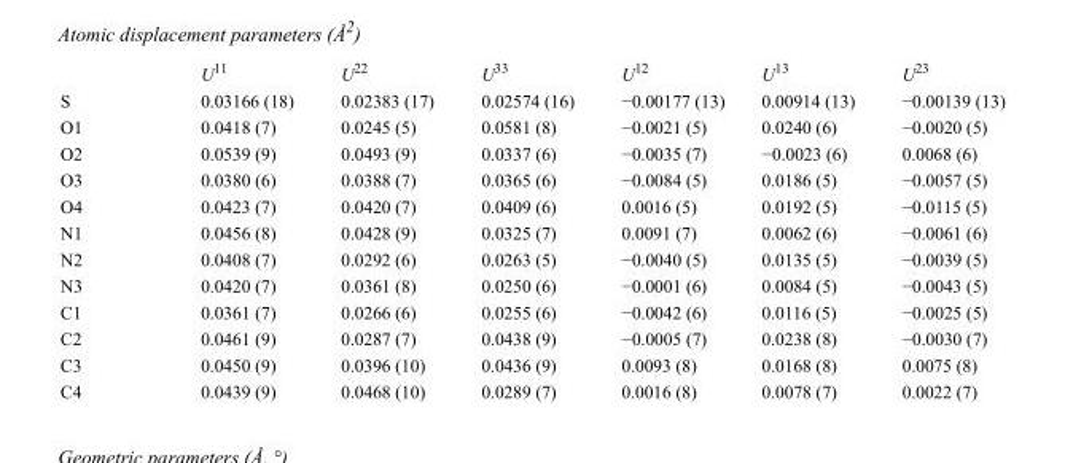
<table><thead><tr><td></td><td>U<sup>11</sup></td><td>U<sup>22</sup></td><td>U<sup>33</sup></td><td>U<sup>12</sup></td><td>U<sup>13</sup></td><td>U<sup>23</sup></td></tr></thead><tbody><tr><td>S</td><td>0.03166 (18)</td><td>0.02383 (17)</td><td>0.02574 (16)</td><td>−0.00177 (13)</td><td>0.00914 (13)</td><td>−0.00139 (13)</td></tr><tr><td>O1</td><td>0.0418 (7)</td><td>0.0245 (5)</td><td>0.0581 (8)</td><td>−0.0021 (5)</td><td>0.0240 (6)</td><td>−0.0020 (5)</td></tr><tr><td>O2</td><td>0.0539 (9)</td><td>0.0493 (9)</td><td>0.0337 (6)</td><td>−0.0035 (7)</td><td>−0.0023 (6)</td><td>0.0068 (6)</td></tr><tr><td>O3</td><td>0.0380 (6)</td><td>0.0388 (7)</td><td>0.0365 (6)</td><td>−0.0084 (5)</td><td>0.0186 (5)</td><td>−0.0057 (5)</td></tr><tr><td>O4</td><td>0.0423 (7)</td><td>0.0420 (7)</td><td>0.0409 (6)</td><td>0.0016 (5)</td><td>0.0192 (5)</td><td>−0.0115 (5)</td></tr><tr><td>N1</td><td>0.0456 (8)</td><td>0.0428 (9)</td><td>0.0325 (7)</td><td>0.0091 (7)</td><td>0.0062 (6)</td><td>−0.0061 (6)</td></tr><tr><td>N2</td><td>0.0408 (7)</td><td>0.0292 (6)</td><td>0.0263 (5)</td><td>−0.0040 (5)</td><td>0.0135 (5)</td><td>−0.0039 (5)</td></tr><tr><td>N3</td><td>0.0420 (7)</td><td>0.0361 (8)</td><td>0.0250 (6)</td><td>−0.0001 (6)</td><td>0.0084 (5)</td><td>−0.0043 (5)</td></tr><tr><td>C1</td><td>0.0361 (7)</td><td>0.0266 (6)</td><td>0.0255 (6)</td><td>−0.0042 (6)</td><td>0.0116 (5)</td><td>−0.0025 (5)</td></tr><tr><td>C2</td><td>0.0461 (9)</td><td>0.0287 (7)</td><td>0.0438 (9)</td><td>−0.0005 (7)</td><td>0.0238 (8)</td><td>−0.0030 (7)</td></tr><tr><td>C3</td><td>0.0450 (9)</td><td>0.0396 (10)</td><td>0.0436 (9)</td><td>0.0093 (8)</td><td>0.0168 (8)</td><td>0.0075 (8)</td></tr><tr><td>C4</td><td>0.0439 (9)</td><td>0.0468 (10)</td><td>0.0289 (7)</td><td>0.0016 (8)</td><td>0.0078 (7)</td><td>0.0022 (7)</td></tr></tbody></table>